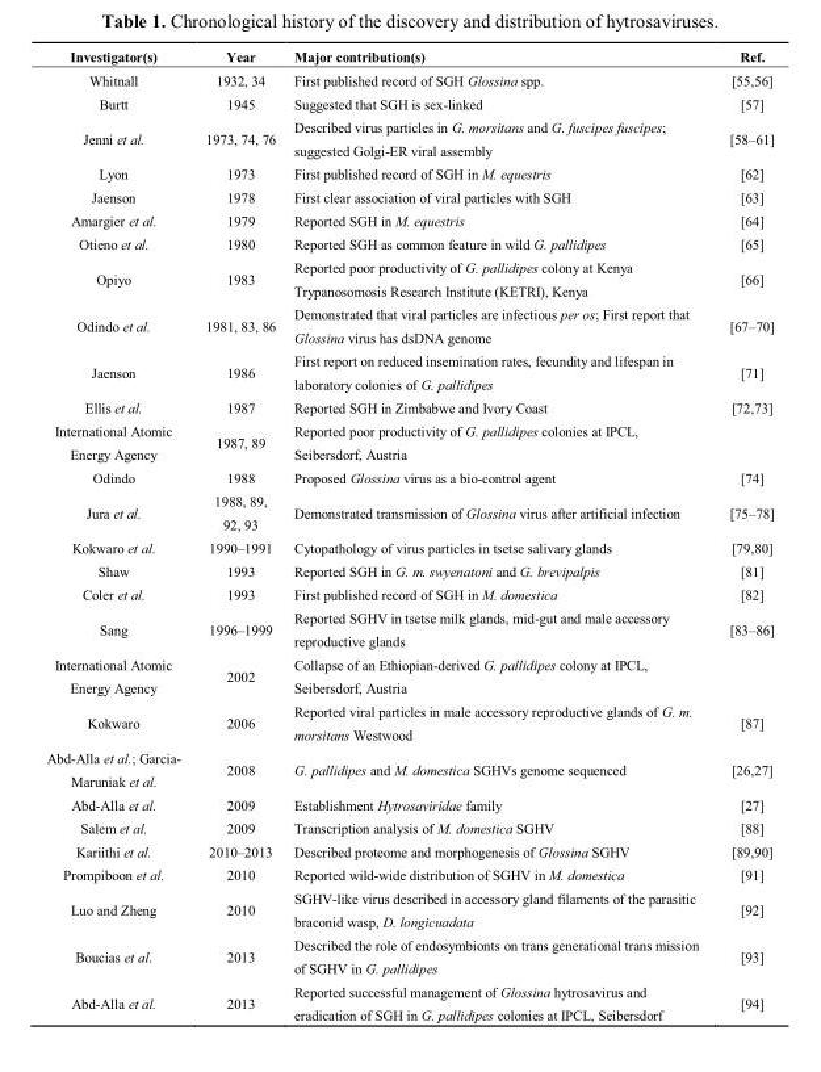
<table><thead><tr><td>Investigator(s)</td><td>Year</td><td>Major contribution(s)</td><td>Ref.</td></tr></thead><tbody><tr><td>Whitnall</td><td>1932, 34</td><td>First published record of SGH Glossina spp.</td><td>[55,56]</td></tr><tr><td>Burtt</td><td>1945</td><td>Suggested that SGH is sex-linked</td><td>[57]</td></tr><tr><td>Jenni et al.</td><td>1973, 74, 76</td><td>Described virus particles in G. morsitans and G. fuscipes fuscipes; suggested Golgi-ER viral assembly</td><td>[58�61]</td></tr><tr><td>Lyon</td><td>1973</td><td>First published record of SGH in M. equestris</td><td>[62]</td></tr><tr><td>Jaenson</td><td>1978</td><td>First clear association of viral particles with SGH</td><td>[63]</td></tr><tr><td>Amargier et al.</td><td>1979</td><td>Reported SGH in M. equestris</td><td>[64]</td></tr><tr><td>Otieno et al.</td><td>1980</td><td>Reported SGH as common feature in wild G. pallidipes</td><td>[65]</td></tr><tr><td>Opiyo</td><td>1983</td><td>Reported poor productivity of G. pallidipes colony at Kenya Trypanosomosis Research Institute (KETRI), Kenya</td><td>[66]</td></tr><tr><td>Odindo et al.</td><td>1981, 83, 86</td><td>Demonstrated that viral particles are infectious per os; First report that Glossina virus has dsDNA genome</td><td>[67�70]</td></tr><tr><td>Jaenson</td><td>1986</td><td>First report on reduced insemination rates, fecundity and lifespan in laboratory colonies of G. pallidipes</td><td>[71]</td></tr><tr><td>Ellis et al.</td><td>1987</td><td>Reported SGH in Zimbabwe and Ivory Coast</td><td>[72,73]</td></tr><tr><td>International Atomic Energy Agency</td><td>1987, 89</td><td>Reported poor productivity of G. pallidipes colonies at IPCL, Seibersdorf, Austria</td><td></td></tr><tr><td>Odindo</td><td>1988</td><td>Proposed Glossina virus as a bio-control agent</td><td>[74]</td></tr><tr><td>Jura et al.</td><td>1988, 89, 92, 93</td><td>Demonstrated transmission of Glossina virus after artificial infection</td><td>[75�78]</td></tr><tr><td>Kokwaro et al.</td><td>1990–1991</td><td>Cytopathology of virus particles in tsetse salivary glands</td><td>[79,80]</td></tr><tr><td>Shaw</td><td>1993</td><td>Reported SGH in G. m. swyenatoni and G. brevipalpis</td><td>[81]</td></tr><tr><td>Coler et al.</td><td>1993</td><td>First published record of SGH in M. domestica</td><td>[82]</td></tr><tr><td>Sang</td><td>1996–1999</td><td>Reported SGHV in tsetse milk glands, mid-gut and male accessory reproductive glands</td><td>[83�86]</td></tr><tr><td>International Atomic Energy Agency</td><td>2002</td><td>Collapse of an Ethiopian-derived G. pallidipes colony at IPCL, Seibersdorf, Austria</td><td></td></tr><tr><td>Kokwaro</td><td>2006</td><td>Reported viral particles in male accessory reproductive glands of G. m. morsitans Westwood</td><td>[87]</td></tr><tr><td>Abd-Alla et al.; Garcia- Maruniak et al.</td><td>2008</td><td>G. pallidipes and M. domestica SGHVs genome sequenced</td><td>[26,27]</td></tr><tr><td>Abd-Alla et al.</td><td>2009</td><td>Establishment Hytrosaviridae family</td><td>[27]</td></tr><tr><td>Salem et al.</td><td>2009</td><td>Transcription analysis of M. domestica SGHV</td><td>[88]</td></tr><tr><td>Kariithi et al.</td><td>2010–2013</td><td>Described proteome and morphogenesis of Glossina SGHV</td><td>[89,90]</td></tr><tr><td>Prompiboon et al.</td><td>2010</td><td>Reported wild-wide distribution of SGHV in M. domestica</td><td>[91]</td></tr><tr><td>Luo and Zheng</td><td>2010</td><td>SGHV-like virus described in accessory gland filaments of the parasitic braconid wasp, D. longicuadata</td><td>[92]</td></tr><tr><td>Boucias et al.</td><td>2013</td><td>Described the role of endosymbionts on trans generational trans mission of SGHV in G. pallidipes</td><td>[93]</td></tr><tr><td>Abd-Alla et al.</td><td>2013</td><td>Reported successful management of Glossina hytrosavirus and eradication of SGH in G. pallidipes colonies at IPCL, Seibersdorf</td><td>[94]</td></tr></tbody></table>